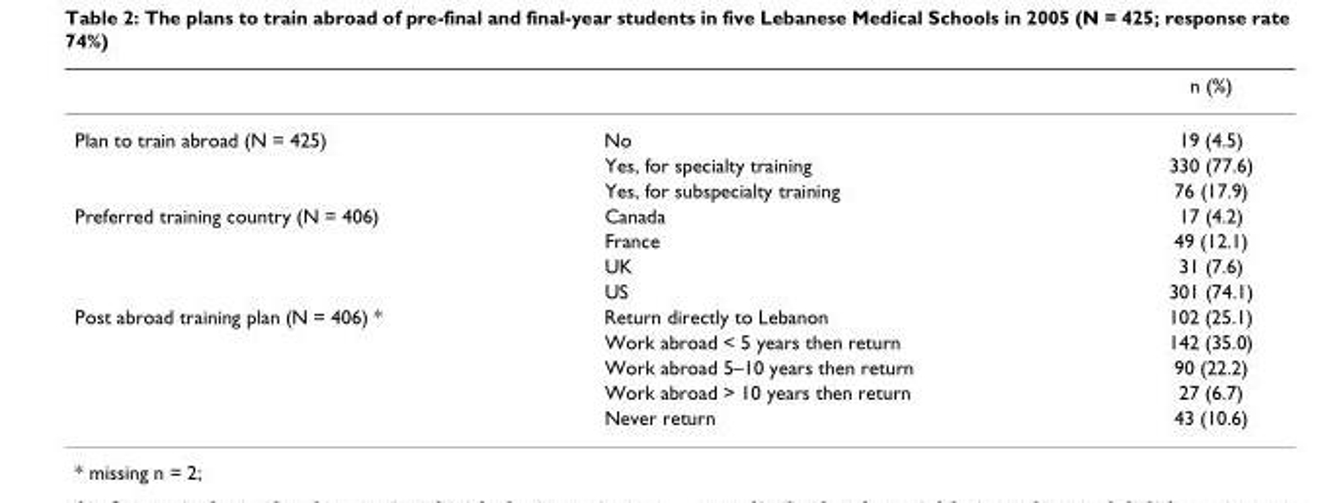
<table><thead><tr><td></td><td></td><td>n (%)</td></tr></thead><tbody><tr><td rowspan="3">Plan to train abroad (N = 425)</td><td>No</td><td>19 (4.5)</td></tr><tr><td>Yes, for specialty training</td><td>330 (77.6)</td></tr><tr><td>Yes, for subspecialty training</td><td>76 (17.9)</td></tr><tr><td rowspan="4">Preferred training country (N = 406)</td><td>Canada</td><td>17 (4.2)</td></tr><tr><td>France</td><td>49 (12.1)</td></tr><tr><td>UK</td><td>31 (7.6)</td></tr><tr><td>US</td><td>301 (74.1)</td></tr><tr><td rowspan="5">Post abroad training plan (N = 406) *</td><td>Return directly to Lebanon</td><td>102 (25.1)</td></tr><tr><td>Work abroad &lt; 5 years then return</td><td>142 (35.0)</td></tr><tr><td>Work abroad 5–10 years then return</td><td>90 (22.2)</td></tr><tr><td>Work abroad &gt; 10 years then return</td><td>27 (6.7)</td></tr><tr><td>Never return</td><td>43 (10.6)</td></tr></tbody></table>